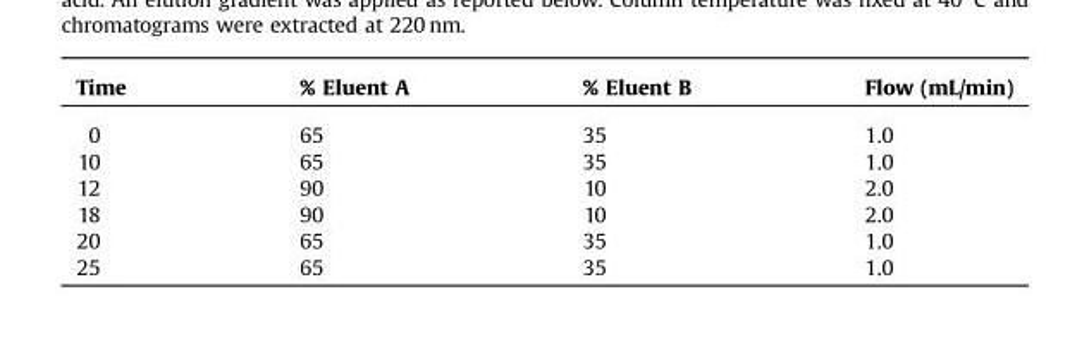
<table><thead><tr><td>Time</td><td>% Eluent A</td><td>% Eluent B</td><td>Flow (mL/min)</td></tr></thead><tbody><tr><td>0</td><td>65</td><td>35</td><td>1.0</td></tr><tr><td>10</td><td>65</td><td>35</td><td>1.0</td></tr><tr><td>12</td><td>90</td><td>10</td><td>2.0</td></tr><tr><td>18</td><td>90</td><td>10</td><td>2.0</td></tr><tr><td>20</td><td>65</td><td>35</td><td>1.0</td></tr><tr><td>25</td><td>65</td><td>35</td><td>1.0</td></tr></tbody></table>